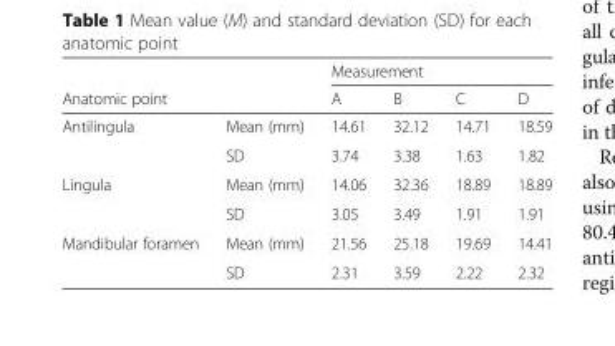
<table><thead><tr><td></td><td></td><td colspan="4">Measurement</td></tr><tr><td colspan="2">Anatomic point</td><td>A</td><td>B</td><td>C</td><td>D</td></tr></thead><tbody><tr><td rowspan="2">Antilingula</td><td>Mean (mm)</td><td>14.61</td><td>32.12</td><td>14.71</td><td>18.59</td></tr><tr><td>SD</td><td>3.74</td><td>3.38</td><td>1.63</td><td>1.82</td></tr><tr><td rowspan="2">Lingula</td><td>Mean (mm)</td><td>14.06</td><td>32.36</td><td>18.89</td><td>18.89</td></tr><tr><td>SD</td><td>3.05</td><td>3.49</td><td>1.91</td><td>1.91</td></tr><tr><td rowspan="2">Mandibular foramen</td><td>Mean (mm)</td><td>21.56</td><td>25.18</td><td>19.69</td><td>14.41</td></tr><tr><td>SD</td><td>2.31</td><td>3.59</td><td>2.22</td><td>2.32</td></tr></tbody></table>